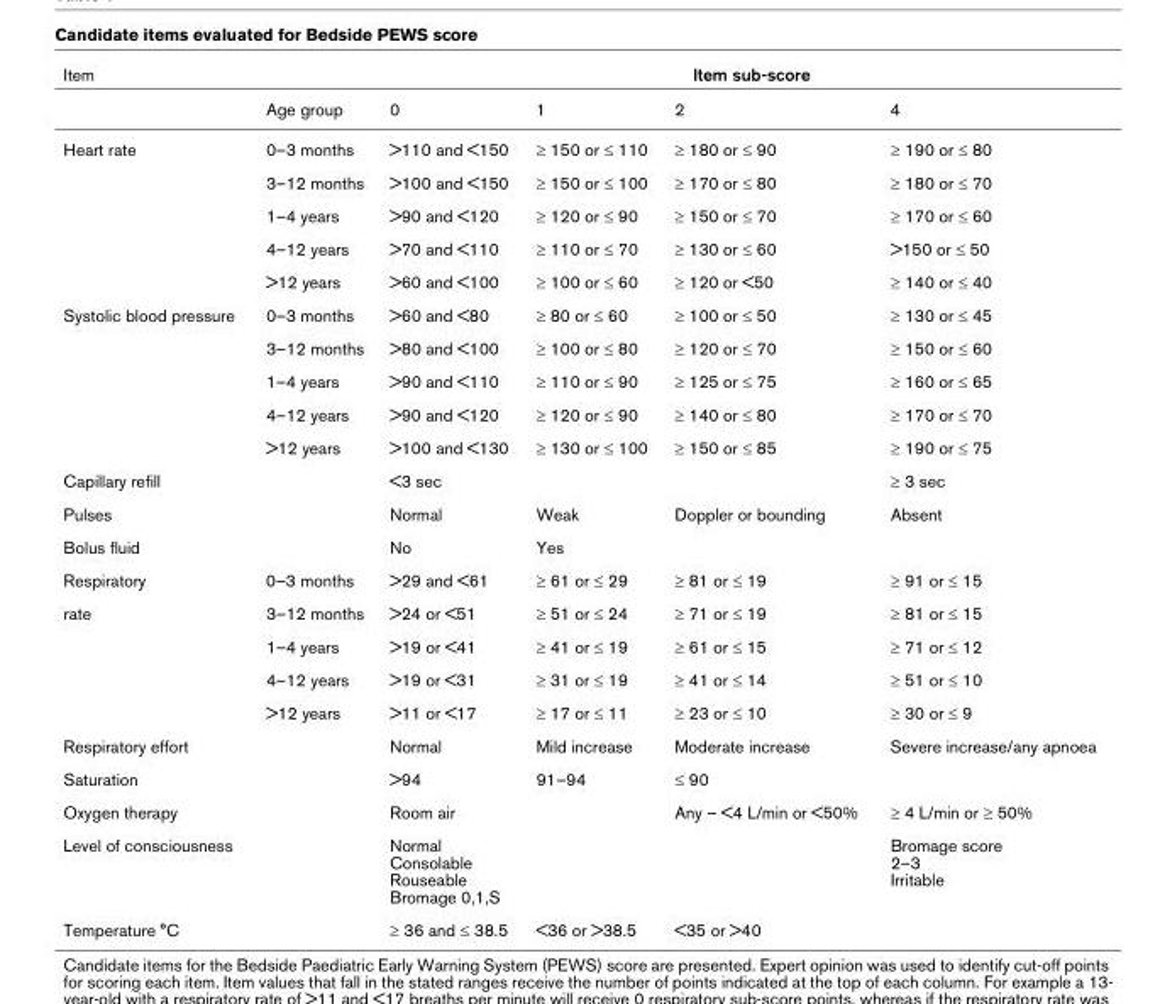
<table><thead><tr><td colspan="2">Item</td><td colspan="4">Item sub-score</td></tr><tr><td></td><td>Age group</td><td>0</td><td>1</td><td>2</td><td>4</td></tr></thead><tbody><tr><td rowspan="5">Heart rate</td><td>0–3 months</td><td>&gt;110 and &lt;150</td><td>≥ 150 or ≤ 110</td><td>≥ 180 or ≤ 90</td><td>≥ 190 or ≤ 80</td></tr><tr><td>3–12 months</td><td>&gt;100 and &lt;150</td><td>≥ 150 or ≤ 100</td><td>≥ 170 or ≤ 80</td><td>≥ 180 or ≤ 70</td></tr><tr><td>1–4 years</td><td>&gt;90 and &lt;120</td><td>≥ 120 or ≤ 90</td><td>≥ 150 or ≤ 70</td><td>≥ 170 or ≤ 60</td></tr><tr><td>4–12 years</td><td>&gt;70 and &lt;110</td><td>≥ 110 or ≤ 70</td><td>≥ 130 or ≤ 60</td><td>&gt;150 or ≤ 50</td></tr><tr><td>&gt;12 years</td><td>&gt;60 and &lt;100</td><td>≥ 100 or ≤ 60</td><td>≥ 120 or &lt;50</td><td>≥ 140 or ≤ 40</td></tr><tr><td rowspan="5">Systolic blood pressure</td><td>0–3 months</td><td>&gt;60 and &lt;80</td><td>≥ 80 or ≤ 60</td><td>≥ 100 or ≤ 50</td><td>≥ 130 or ≤ 45</td></tr><tr><td>3–12 months</td><td>&gt;80 and &lt;100</td><td>≥ 100 or ≤ 80</td><td>≥ 120 or ≤ 70</td><td>≥ 150 or ≤ 60</td></tr><tr><td>1–4 years</td><td>&gt;90 and &lt;110</td><td>≥ 110 or ≤ 90</td><td>≥ 125 or ≤ 75</td><td>≥ 160 or ≤ 65</td></tr><tr><td>4–12 years</td><td>&gt;90 and &lt;120</td><td>≥ 120 or ≤ 90</td><td>≥ 140 or ≤ 80</td><td>≥ 170 or ≤ 70</td></tr><tr><td>&gt;12 years</td><td>&gt;100 and &lt;130</td><td>≥ 130 or ≤ 100</td><td>≥ 150 or ≤ 85</td><td>≥ 190 or ≤ 75</td></tr><tr><td>Capillary refill</td><td></td><td>&lt;3 sec</td><td></td><td></td><td>≥ 3 sec</td></tr><tr><td>Pulses</td><td></td><td>Normal</td><td>Weak</td><td>Doppler or bounding</td><td>Absent</td></tr><tr><td>Bolus fluid</td><td></td><td>No</td><td>Yes</td><td></td><td></td></tr><tr><td>Respiratory</td><td>0–3 months</td><td>&gt;29 and &lt;61</td><td>≥ 61 or ≤ 29</td><td>≥ 81 or ≤ 19</td><td>≥ 91 or ≤ 15</td></tr><tr><td rowspan="4">rate</td><td>3–12 months</td><td>&gt;24 or &lt;51</td><td>≥ 51 or ≤ 24</td><td>≥ 71 or ≤ 19</td><td>≥ 81 or ≤ 15</td></tr><tr><td>1–4 years</td><td>&gt;19 or &lt;41</td><td>≥ 41 or ≤ 19</td><td>≥ 61 or ≤ 15</td><td>≥ 71 or ≤ 12</td></tr><tr><td>4–12 years</td><td>&gt;19 or &lt;31</td><td>≥ 31 or ≤ 19</td><td>≥ 41 or ≤ 14</td><td>≥ 51 or ≤ 10</td></tr><tr><td>&gt;12 years</td><td>&gt;11 or &lt;17</td><td>≥ 17 or ≤ 11</td><td>≥ 23 or ≤ 10</td><td>≥ 30 or ≤ 9</td></tr><tr><td>Respiratory effort</td><td></td><td>Normal</td><td>Mild increase</td><td>Moderate increase</td><td>Severe increase/any apnoea</td></tr><tr><td>Saturation</td><td></td><td>&gt;94</td><td>91–94</td><td>≤ 90</td><td></td></tr><tr><td>Oxygen therapy</td><td></td><td>Room air</td><td></td><td>Any – &lt;4 L/min or &lt;50%</td><td>≥ 4 L/min or ≥ 50%</td></tr><tr><td>Level of consciousness</td><td></td><td>Normal Consolable Rouseable Bromage 0,1,S</td><td></td><td></td><td>Bromage score 2–3 Irritable</td></tr><tr><td>Temperature °C</td><td></td><td>≥ 36 and ≤ 38.5</td><td>&lt;36 or &gt;38.5</td><td>&lt;35 or &gt;40</td><td></td></tr></tbody></table>